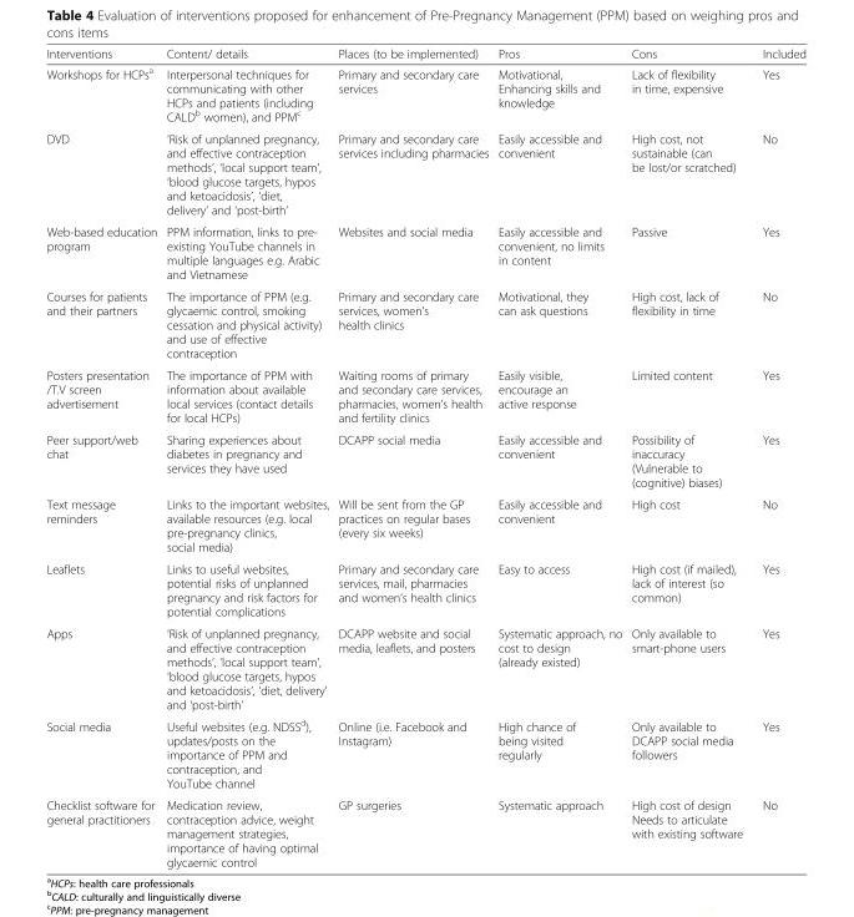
<table><thead><tr><td>Interventions</td><td>Content/ details</td><td>Places (to be implemented)</td><td>Pros</td><td>Cons</td><td>Included</td></tr></thead><tbody><tr><td>Workshops for HCPs<sup>a</sup></td><td>Interpersonal techniques for communicating with other HCPs and patients (including CALD<sup>b</sup> women), and PPM<sup>c</sup></td><td>Primary and secondary care services</td><td>Motivational, Enhancing skills and knowledge</td><td>Lack of flexibility in time, expensive</td><td>Yes</td></tr><tr><td>DVD</td><td>‘Risk of unplanned pregnancy, and effective contraception methods’, ‘local support team’, ‘blood glucose targets, hypos and ketoacidosis’, ‘diet, delivery’ and ‘post-birth’</td><td>Primary and secondary care services including pharmacies</td><td>Easily accessible and convenient</td><td>High cost, not sustainable (can be lost/or scratched)</td><td>No</td></tr><tr><td>Web-based education program</td><td>PPM information, links to pre- existing YouTube channels in multiple languages e.g. Arabic and Vietnamese</td><td>Websites and social media</td><td>Easily accessible and convenient, no limits in content</td><td>Passive</td><td>Yes</td></tr><tr><td>Courses for patients and their partners</td><td>The importance of PPM (e.g. glycaemic control, smoking cessation and physical activity) and use of effective contraception</td><td>Primary and secondary care services, women’s health clinics</td><td>Motivational, they can ask questions</td><td>High cost, lack of flexibility in time</td><td>No</td></tr><tr><td>Posters presentation /T.V screen advertisement</td><td>The importance of PPM with information about available local services (contact details for local HCPs)</td><td>Waiting rooms of primary and secondary care services, pharmacies, women’s health and fertility clinics</td><td>Easily visible, encourage an active response</td><td>Limited content</td><td>Yes</td></tr><tr><td>Peer support/web chat</td><td>Sharing experiences about diabetes in pregnancy and services they have used</td><td>DCAPP social media</td><td>Easily accessible and convenient</td><td>Possibility of inaccuracy (Vulnerable to (cognitive) biases)</td><td>Yes</td></tr><tr><td>Text message reminders</td><td>Links to the important websites, available resources (e.g. local pre-pregnancy clinics, social media)</td><td>Will be sent from the GP practices on regular bases (every six weeks)</td><td>Easily accessible and convenient</td><td>High cost</td><td>No</td></tr><tr><td>Leaflets</td><td>Links to useful websites, potential risks of unplanned pregnancy and risk factors for potential complications</td><td>Primary and secondary care services, mail, pharmacies and women’s health clinics</td><td>Easy to access</td><td>High cost (if mailed), lack of interest (so common)</td><td>Yes</td></tr><tr><td>Apps</td><td>‘Risk of unplanned pregnancy, and effective contraception methods’, ‘local support team’, ‘blood glucose targets, hypos and ketoacidosis’, ‘diet, delivery’ and ‘post-birth’</td><td>DCAPP website and social media, leaflets, and posters</td><td>Systematic approach, no cost to design (already existed)</td><td>Only available to smart-phone users</td><td>Yes</td></tr><tr><td>Social media</td><td>Useful websites (e.g. NDSS<sup>d</sup>), updates/posts on the importance of PPM and contraception, and YouTube channel</td><td>Online (i.e. Facebook and Instagram)</td><td>High chance of being visited regularly</td><td>Only available to DCAPP social media followers</td><td>Yes</td></tr><tr><td>Checklist software for general practitioners</td><td>Medication review, contraception advice, weight management strategies, importance of having optimal glycaemic control</td><td>GP surgeries</td><td>Systematic approach</td><td>High cost of design Needs to articulate with existing software</td><td>No</td></tr></tbody></table>